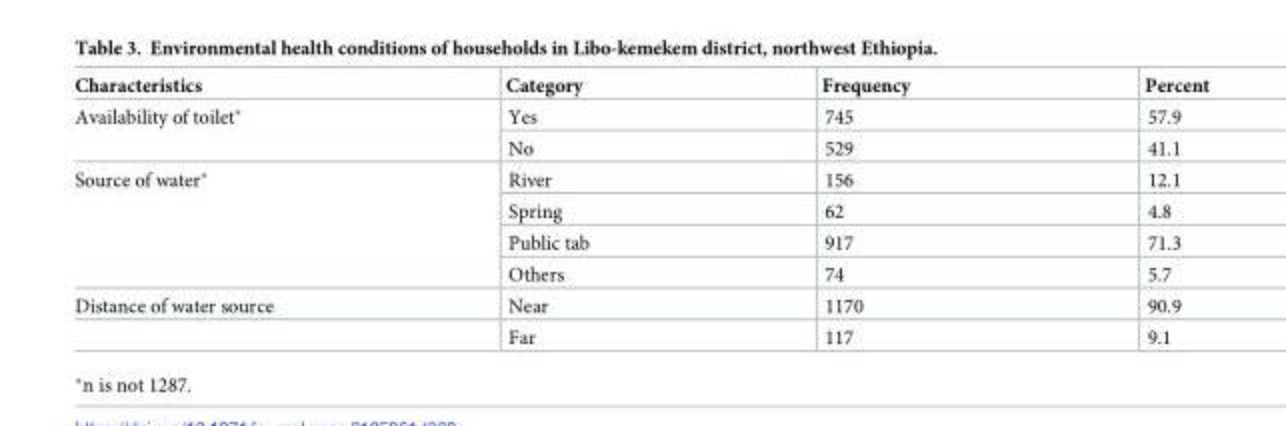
<table><thead><tr><td>Characteristics</td><td>Category</td><td>Frequency</td><td>Percent</td></tr></thead><tbody><tr><td rowspan="2">Availability of toilet*</td><td>Yes</td><td>745</td><td>57.9</td></tr><tr><td>No</td><td>529</td><td>41.1</td></tr><tr><td rowspan="4">Source of water*</td><td>River</td><td>156</td><td>12.1</td></tr><tr><td>Spring</td><td>62</td><td>4.8</td></tr><tr><td>Public tab</td><td>917</td><td>71.3</td></tr><tr><td>Others</td><td>74</td><td>5.7</td></tr><tr><td rowspan="2">Distance of water source</td><td>Near</td><td>1170</td><td>90.9</td></tr><tr><td>Far</td><td>117</td><td>9.1</td></tr></tbody></table>